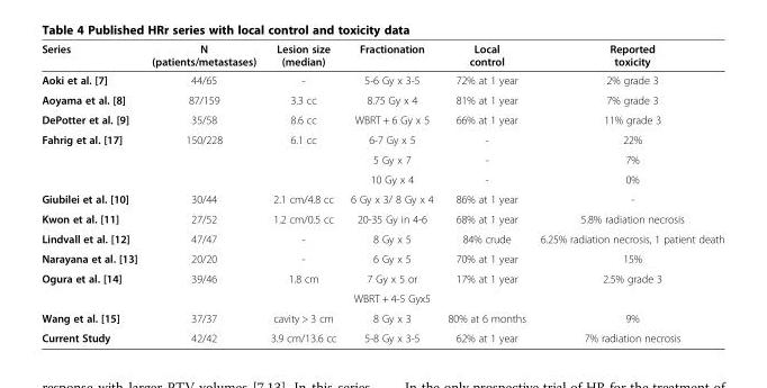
<table><thead><tr><td>Series</td><td>N (patients/metastases)</td><td>Lesion size (median)</td><td>Fractionation</td><td>Local control</td><td>Reported toxicity</td></tr></thead><tbody><tr><td>Aoki et al. [7]</td><td>44/65</td><td>-</td><td>5-6 Gy x 3-5</td><td>72% at 1 year</td><td>2% grade 3</td></tr><tr><td>Aoyama et al. [8]</td><td>87/159</td><td>3.3 cc</td><td>8.75 Gy x 4</td><td>81% at 1 year</td><td>7% grade 3</td></tr><tr><td>DePotter et al. [9]</td><td>35/58</td><td>8.6 cc</td><td>WBRT + 6 Gy x 5</td><td>66% at 1 year</td><td>11% grade 3</td></tr><tr><td rowspan="3">Fahrig et al. [17]</td><td rowspan="3">150/228</td><td rowspan="3">6.1 cc</td><td>6-7 Gy x 5</td><td>-</td><td>22%</td></tr><tr><td>5 Gy x 7</td><td>-</td><td>7%</td></tr><tr><td>10 Gy x 4</td><td>-</td><td>0%</td></tr><tr><td>Giubilei et al. [10]</td><td>30/44</td><td>2.1 cm/4.8 cc</td><td>6 Gy x 3/ 8 Gy x 4</td><td>86% at 1 year</td><td>-</td></tr><tr><td>Kwon et al. [11]</td><td>27/52</td><td>1.2 cm/0.5 cc</td><td>20-35 Gy in 4-6</td><td>68% at 1 year</td><td>5.8% radiation necrosis</td></tr><tr><td>Lindvall et al. [12]</td><td>47/47</td><td>-</td><td>8 Gy x 5</td><td>84% crude</td><td>6.25% radiation necrosis, 1 patient death</td></tr><tr><td>Narayana et al. [13]</td><td>20/20</td><td>-</td><td>6 Gy x 5</td><td>70% at 1 year</td><td>15%</td></tr><tr><td rowspan="2">Ogura et al. [14]</td><td rowspan="2">39/46</td><td rowspan="2">1.8 cm</td><td>7 Gy x 5 or</td><td rowspan="2">17% at 1 year</td><td rowspan="2">2.5% grade 3</td></tr><tr><td>WBRT + 4-5 Gyx5</td></tr><tr><td>Wang et al. [15]</td><td>37/37</td><td>cavity &gt; 3 cm</td><td>8 Gy x 3</td><td>80% at 6 months</td><td>9%</td></tr><tr><td>Current Study</td><td>42/42</td><td>3.9 cm/13.6 cc</td><td>5-8 Gy x 3-5</td><td>62% at 1 year</td><td>7% radiation necrosis</td></tr></tbody></table>